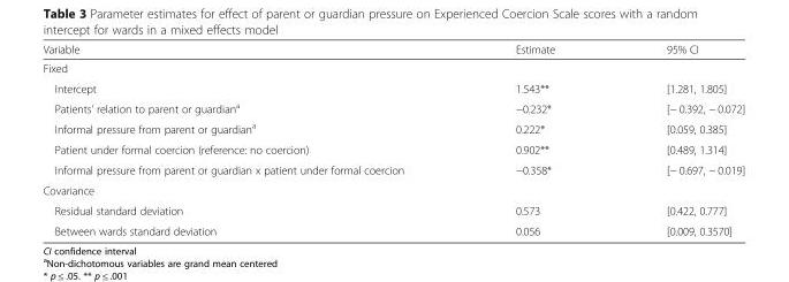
<table><thead><tr><td>Variable</td><td>Estimate</td><td>95% CI</td></tr></thead><tbody><tr><td colspan="3">Fixed</td></tr><tr><td>Intercept</td><td>1.543**</td><td>[1.281, 1.805]</td></tr><tr><td>Patients’ relation to parent or guardian<sup>a</sup></td><td>−0.232*</td><td>[− 0.392, − 0.072]</td></tr><tr><td>Informal pressure from parent or guardian<sup>a</sup></td><td>0.222*</td><td>[0.059, 0.385]</td></tr><tr><td>Patient under formal coercion (reference: no coercion)</td><td>0.902**</td><td>[0.489, 1.314]</td></tr><tr><td>Informal pressure from parent or guardian x patient under formal coercion</td><td>−0.358*</td><td>[− 0.697, − 0.019]</td></tr><tr><td colspan="3">Covariance</td></tr><tr><td>Residual standard deviation</td><td>0.573</td><td>[0.422, 0.777]</td></tr><tr><td>Between wards standard deviation</td><td>0.056</td><td>[0.009, 0.3570]</td></tr></tbody></table>